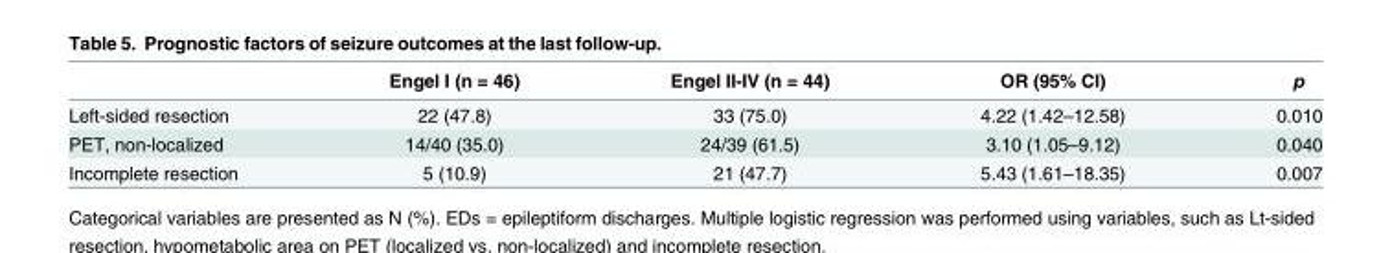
<table><thead><tr><td></td><td>Engel I (n = 46)</td><td>Engel II-IV (n = 44)</td><td>OR (95% CI)</td><td>p</td></tr></thead><tbody><tr><td>Left-sided resection</td><td>22 (47.8)</td><td>33 (75.0)</td><td>4.22 (1.42–12.58)</td><td>0.010</td></tr><tr><td>PET, non-localized</td><td>14/40 (35.0)</td><td>24/39 (61.5)</td><td>3.10 (1.05–9.12)</td><td>0.040</td></tr><tr><td>Incomplete resection</td><td>5 (10.9)</td><td>21 (47.7)</td><td>5.43 (1.61–18.35)</td><td>0.007</td></tr></tbody></table>